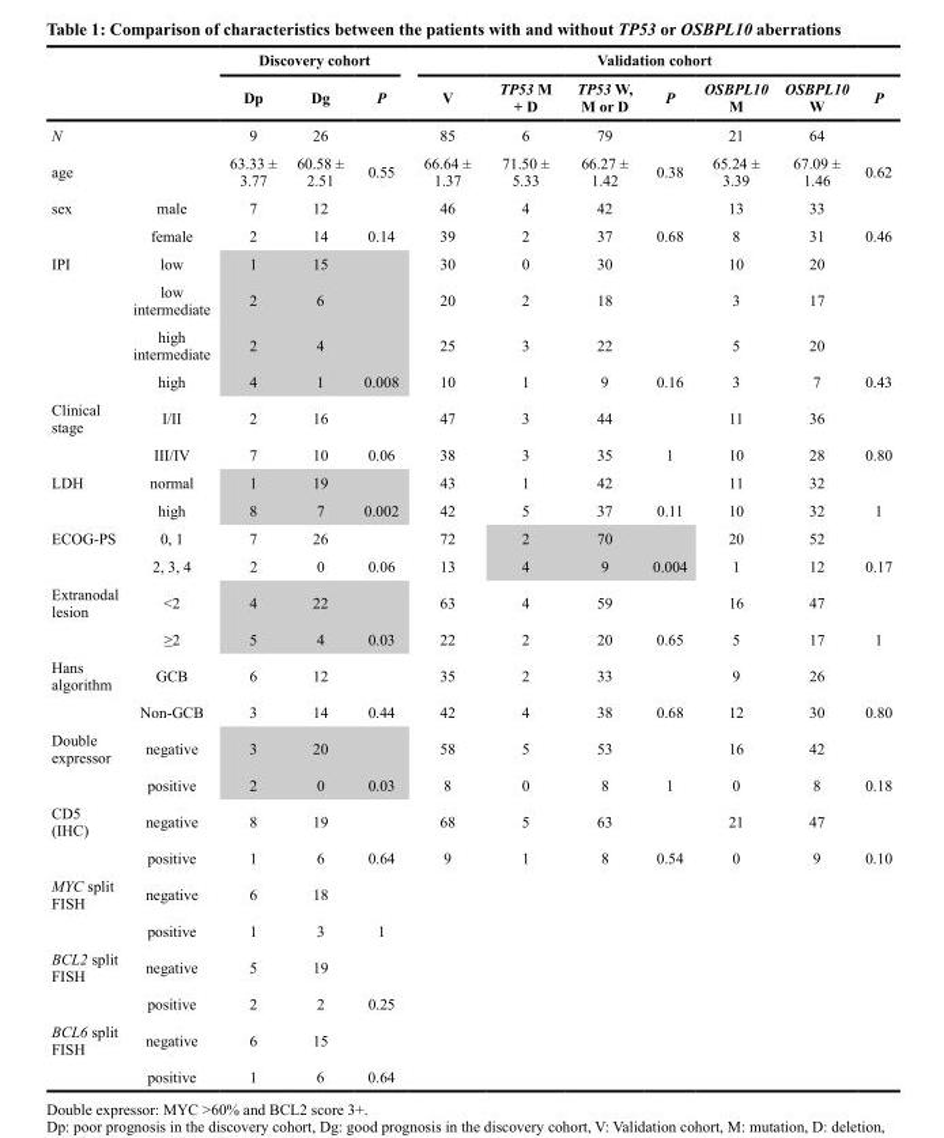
<table><thead><tr><td rowspan="2"></td><td rowspan="2"></td><td colspan="3">Discovery cohort</td><td colspan="7">Validation cohort</td></tr><tr><td>Dp</td><td>Dg</td><td>P</td><td>V</td><td>TP53 M + D</td><td>TP53 W, M or D</td><td>P</td><td>OSBPL10 M</td><td>OSBPL10 W</td><td>P</td></tr></thead><tbody><tr><td>N</td><td></td><td>9</td><td>26</td><td></td><td>85</td><td>6</td><td>79</td><td></td><td>21</td><td>64</td><td></td></tr><tr><td>age</td><td></td><td>63.33 ± 3.77</td><td>60.58 ± 2.51</td><td>0.55</td><td>66.64 ± 1.37</td><td>71.50 ± 5.33</td><td>66.27 ± 1.42</td><td>0.38</td><td>65.24 ± 3.39</td><td>67.09 ± 1.46</td><td>0.62</td></tr><tr><td rowspan="2">sex</td><td>male</td><td>7</td><td>12</td><td></td><td>46</td><td>4</td><td>42</td><td></td><td>13</td><td>33</td><td></td></tr><tr><td>female</td><td>2</td><td>14</td><td>0.14</td><td>39</td><td>2</td><td>37</td><td>0.68</td><td>8</td><td>31</td><td>0.46</td></tr><tr><td rowspan="4">IPI</td><td>low</td><td>1</td><td>15</td><td></td><td>30</td><td>0</td><td>30</td><td></td><td>10</td><td>20</td><td></td></tr><tr><td>low intermediate</td><td>2</td><td>6</td><td></td><td>20</td><td>2</td><td>18</td><td></td><td>3</td><td>17</td><td></td></tr><tr><td>high intermediate</td><td>2</td><td>4</td><td></td><td>25</td><td>3</td><td>22</td><td></td><td>5</td><td>20</td><td></td></tr><tr><td>high</td><td>4</td><td>1</td><td>0.008</td><td>10</td><td>1</td><td>9</td><td>0.16</td><td>3</td><td>7</td><td>0.43</td></tr><tr><td rowspan="2">Clinical stage</td><td>I/II</td><td>2</td><td>16</td><td></td><td>47</td><td>3</td><td>44</td><td></td><td>11</td><td>36</td><td></td></tr><tr><td>III/IV</td><td>7</td><td>10</td><td>0.06</td><td>38</td><td>3</td><td>35</td><td>1</td><td>10</td><td>28</td><td>0.80</td></tr><tr><td rowspan="2">LDH</td><td>normal</td><td>1</td><td>19</td><td></td><td>43</td><td>1</td><td>42</td><td></td><td>11</td><td>32</td><td></td></tr><tr><td>high</td><td>8</td><td>7</td><td>0.002</td><td>42</td><td>5</td><td>37</td><td>0.11</td><td>10</td><td>32</td><td>1</td></tr><tr><td rowspan="2">ECOG-PS</td><td>0, 1</td><td>7</td><td>26</td><td></td><td>72</td><td>2</td><td>70</td><td></td><td>20</td><td>52</td><td></td></tr><tr><td>2, 3, 4</td><td>2</td><td>0</td><td>0.06</td><td>13</td><td>4</td><td>9</td><td>0.004</td><td>1</td><td>12</td><td>0.17</td></tr><tr><td rowspan="2">Extranodal lesion</td><td>&lt;2</td><td>4</td><td>22</td><td></td><td>63</td><td>4</td><td>59</td><td></td><td>16</td><td>47</td><td></td></tr><tr><td>≥2</td><td>5</td><td>4</td><td>0.03</td><td>22</td><td>2</td><td>20</td><td>0.65</td><td>5</td><td>17</td><td>1</td></tr><tr><td rowspan="2">Hans algorithm</td><td>GCB</td><td>6</td><td>12</td><td></td><td>35</td><td>2</td><td>33</td><td></td><td>9</td><td>26</td><td></td></tr><tr><td>Non-GCB</td><td>3</td><td>14</td><td>0.44</td><td>42</td><td>4</td><td>38</td><td>0.68</td><td>12</td><td>30</td><td>0.80</td></tr><tr><td rowspan="2">Double expressor</td><td>negative</td><td>3</td><td>20</td><td></td><td>58</td><td>5</td><td>53</td><td></td><td>16</td><td>42</td><td></td></tr><tr><td>positive</td><td>2</td><td>0</td><td>0.03</td><td>8</td><td>0</td><td>8</td><td>1</td><td>0</td><td>8</td><td>0.18</td></tr><tr><td rowspan="2">CD5 (IHC)</td><td>negative</td><td>8</td><td>19</td><td></td><td>68</td><td>5</td><td>63</td><td></td><td>21</td><td>47</td><td></td></tr><tr><td>positive</td><td>1</td><td>6</td><td>0.64</td><td>9</td><td>1</td><td>8</td><td>0.54</td><td>0</td><td>9</td><td>0.10</td></tr><tr><td rowspan="2">MYC split FISH</td><td>negative</td><td>6</td><td>18</td><td></td><td></td><td></td><td></td><td></td><td></td><td></td><td></td></tr><tr><td>positive</td><td>1</td><td>3</td><td>1</td><td></td><td></td><td></td><td></td><td></td><td></td><td></td></tr><tr><td rowspan="2">BCL2 split FISH</td><td>negative</td><td>5</td><td>19</td><td></td><td></td><td></td><td></td><td></td><td></td><td></td><td></td></tr><tr><td>positive</td><td>2</td><td>2</td><td>0.25</td><td></td><td></td><td></td><td></td><td></td><td></td><td></td></tr><tr><td rowspan="2">BCL6 split FISH</td><td>negative</td><td>6</td><td>15</td><td></td><td></td><td></td><td></td><td></td><td></td><td></td><td></td></tr><tr><td>positive</td><td>1</td><td>6</td><td>0.64</td><td></td><td></td><td></td><td></td><td></td><td></td><td></td></tr></tbody></table>